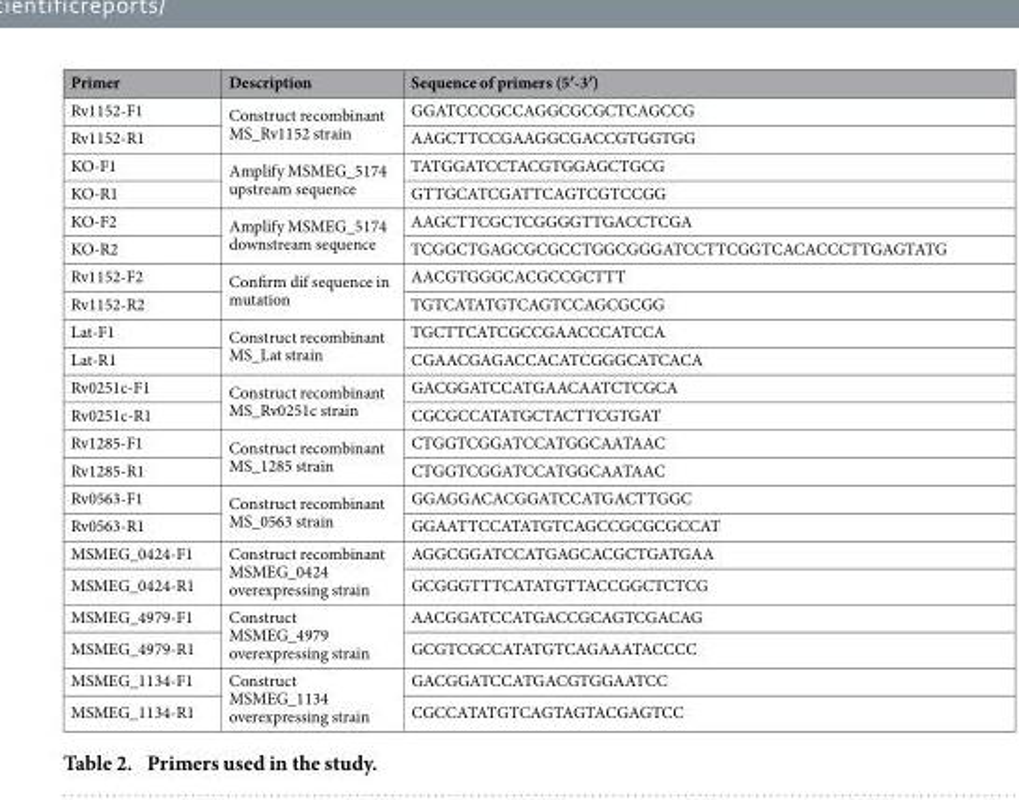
<table><thead><tr><td>Primer</td><td>Description</td><td>Sequence of primers (5′-3′)</td></tr></thead><tbody><tr><td>Rv1152-F1</td><td rowspan="2">Construct recombinant MS_Rv1152 strain</td><td>GGATCCCGCCAGGCGCGCTCAGCCG</td></tr><tr><td>Rv1152-R1</td><td>AAGCTTCCGAAGGCGACCGTGGTGG</td></tr><tr><td>KO-F1</td><td rowspan="2">Amplify MSMEG_5174 upstream sequence</td><td>TATGGATCCTACGTGGAGCTGCG</td></tr><tr><td>KO-R1</td><td>GTTGCATCGATTCAGTCGTCCGG</td></tr><tr><td>KO-F2</td><td rowspan="2">Amplify MSMEG_5174 downstream sequence</td><td>AAGCTTCGCTCGGGGTTGACCTCGA</td></tr><tr><td>KO-R2</td><td>TCGGCTGAGCGCGCCTGGCGGGATCCTTCGGTCACACCCTTGAGTATG</td></tr><tr><td>Rv1152-F2</td><td rowspan="2">Confirm dif sequence in mutation</td><td>AACGTGGGCACGCCGCTTT</td></tr><tr><td>Rv1152-R2</td><td>TGTCATATGTCAGTCCAGCGCGG</td></tr><tr><td>Lat-F1</td><td rowspan="2">Construct recombinant MS_Lat strain</td><td>TGCTTCATCGCCGAACCCATCCA</td></tr><tr><td>Lat-R1</td><td>CGAACGAGACCACATCGGGCATCACA</td></tr><tr><td>Rv0251c-F1</td><td rowspan="2">Construct recombinant MS_Rv0251c strain</td><td>GACGGATCCATGAACAATCTCGCA</td></tr><tr><td>Rv0251c-R1</td><td>CGCGCCATATGCTACTTCGTGAT</td></tr><tr><td>Rv1285-F1</td><td rowspan="2">Construct recombinant MS_1285 strain</td><td>CTGGTCGGATCCATGGCAATAAC</td></tr><tr><td>Rv1285-R1</td><td>CTGGTCGGATCCATGGCAATAAC</td></tr><tr><td>Rv0563-F1</td><td rowspan="2">Construct recombinant MS_0563 strain</td><td>GGAGGACACGGATCCATGACTTGGC</td></tr><tr><td>Rv0563-R1</td><td>GGAATTCCATATGTCAGCCGCGCGCCAT</td></tr><tr><td>MSMEG_0424-F1</td><td rowspan="2">Construct recombinant MSMEG_0424 overexpressing strain</td><td>AGGCGGATCCATGAGCACGCTGATGAA</td></tr><tr><td>MSMEG_0424-R1</td><td>GCGGGTTTCATATGTTACCGGCTCTCG</td></tr><tr><td>MSMEG_4979-F1</td><td rowspan="2">Construct MSMEG_4979 overexpressing strain</td><td>AACGGATCCATGACCGCAGTCGACAG</td></tr><tr><td>MSMEG_4979-R1</td><td>GCGTCGCCATATGTCAGAAATACCCC</td></tr><tr><td>MSMEG_1134-F1</td><td rowspan="2">Construct MSMEG_1134 overexpressing strain</td><td>GACGGATCCATGACGTGGAATCC</td></tr><tr><td>MSMEG_1134-R1</td><td>CGCCATATGTCAGTAGTACGAGTCC</td></tr></tbody></table>